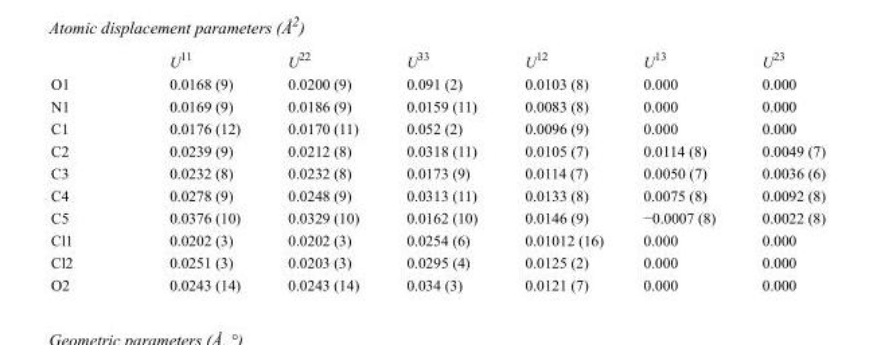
<table><thead><tr><td></td><td>U<sup>11</sup></td><td>U<sup>22</sup></td><td>U<sup>33</sup></td><td>U<sup>12</sup></td><td>U<sup>13</sup></td><td>U<sup>23</sup></td></tr></thead><tbody><tr><td>O1</td><td>0.0168 (9)</td><td>0.0200 (9)</td><td>0.091 (2)</td><td>0.0103 (8)</td><td>0.000</td><td>0.000</td></tr><tr><td>N1</td><td>0.0169 (9)</td><td>0.0186 (9)</td><td>0.0159 (11)</td><td>0.0083 (8)</td><td>0.000</td><td>0.000</td></tr><tr><td>C1</td><td>0.0176 (12)</td><td>0.0170 (11)</td><td>0.052 (2)</td><td>0.0096 (9)</td><td>0.000</td><td>0.000</td></tr><tr><td>C2</td><td>0.0239 (9)</td><td>0.0212 (8)</td><td>0.0318 (11)</td><td>0.0105 (7)</td><td>0.0114 (8)</td><td>0.0049 (7)</td></tr><tr><td>C3</td><td>0.0232 (8)</td><td>0.0232 (8)</td><td>0.0173 (9)</td><td>0.0114 (7)</td><td>0.0050 (7)</td><td>0.0036 (6)</td></tr><tr><td>C4</td><td>0.0278 (9)</td><td>0.0248 (9)</td><td>0.0313 (11)</td><td>0.0133 (8)</td><td>0.0075 (8)</td><td>0.0092 (8)</td></tr><tr><td>C5</td><td>0.0376 (10)</td><td>0.0329 (10)</td><td>0.0162 (10)</td><td>0.0146 (9)</td><td>−0.0007 (8)</td><td>0.0022 (8)</td></tr><tr><td>Cl1</td><td>0.0202 (3)</td><td>0.0202 (3)</td><td>0.0254 (6)</td><td>0.01012 (16)</td><td>0.000</td><td>0.000</td></tr><tr><td>Cl2</td><td>0.0251 (3)</td><td>0.0203 (3)</td><td>0.0295 (4)</td><td>0.0125 (2)</td><td>0.000</td><td>0.000</td></tr><tr><td>O2</td><td>0.0243 (14)</td><td>0.0243 (14)</td><td>0.034 (3)</td><td>0.0121 (7)</td><td>0.000</td><td>0.000</td></tr></tbody></table>